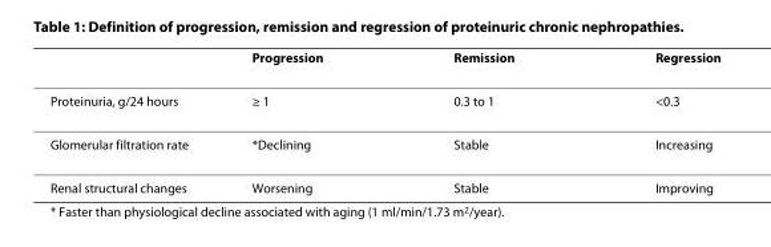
<table><thead><tr><td></td><td>Progression</td><td>Remission</td><td>Regression</td></tr></thead><tbody><tr><td>Proteinuria, g/24 hours</td><td>≥ 1</td><td>0.3 to 1</td><td>&lt;0.3</td></tr><tr><td>Glomerular filtration rate</td><td>*Declining</td><td>Stable</td><td>Increasing</td></tr><tr><td>Renal structural changes</td><td>Worsening</td><td>Stable</td><td>Improving</td></tr></tbody></table>